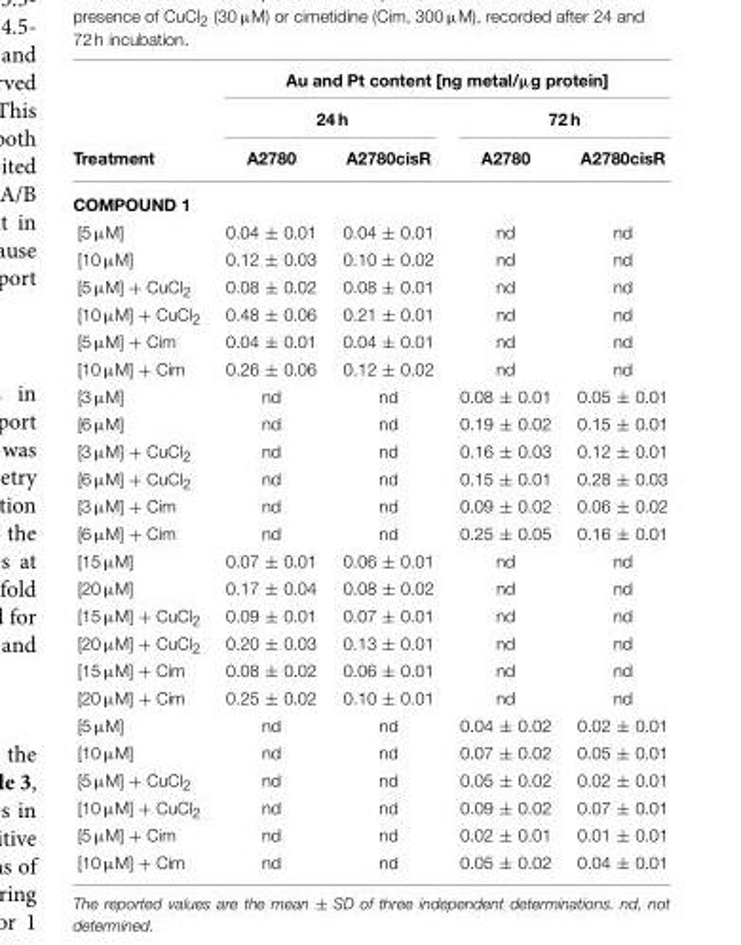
<table><thead><tr><td rowspan="3">Treatment</td><td colspan="4">Au and Pt content [ng metal/µg protein]</td></tr><tr><td colspan="2">24 h</td><td colspan="2">72 h</td></tr><tr><td>A2780</td><td>A2780cisR</td><td>A2780</td><td>A2780cisR</td></tr></thead><tbody><tr><td colspan="5">COMPOUND 1</td></tr><tr><td>[5 µM]</td><td>0.04 ± 0.01</td><td>0.04 ± 0.01</td><td>nd</td><td>nd</td></tr><tr><td>[10 µM]</td><td>0.12 ± 0.03</td><td>0.10 ± 0.02</td><td>nd</td><td>nd</td></tr><tr><td>[5 µM] + CuCl<sub>2</sub></td><td>0.08 ± 0.02</td><td>0.08 ± 0.01</td><td>nd</td><td>nd</td></tr><tr><td>[10 µM] + CuCl<sub>2</sub></td><td>0.48 ± 0.06</td><td>0.21 ± 0.01</td><td>nd</td><td>nd</td></tr><tr><td>[5 µM] + Cim</td><td>0.04 ± 0.01</td><td>0.04 ± 0.01</td><td>nd</td><td>nd</td></tr><tr><td>[10 µM] + Cim</td><td>0.26 ± 0.06</td><td>0.12 ± 0.02</td><td>nd</td><td>nd</td></tr><tr><td>[3 µM]</td><td>nd</td><td>nd</td><td>0.08 ± 0.01</td><td>0.05 ± 0.01</td></tr><tr><td>[6 µM]</td><td>nd</td><td>nd</td><td>0.19 ± 0.02</td><td>0.15 ± 0.01</td></tr><tr><td>[3 µM] + CuCl<sub>2</sub></td><td>nd</td><td>nd</td><td>0.16 ± 0.03</td><td>0.12 ± 0.01</td></tr><tr><td>[6 µM] + CuCl<sub>2</sub></td><td>nd</td><td>nd</td><td>0.15 ± 0.01</td><td>0.28 ± 0.03</td></tr><tr><td>[3 µM] + Cim</td><td>nd</td><td>nd</td><td>0.09 ± 0.02</td><td>0.06 ± 0.02</td></tr><tr><td>[6 µM] + Cim</td><td>nd</td><td>nd</td><td>0.25 ± 0.05</td><td>0.16 ± 0.01</td></tr><tr><td>[15 µM]</td><td>0.07 ± 0.01</td><td>0.06 ± 0.01</td><td>nd</td><td>nd</td></tr><tr><td>[20 µM]</td><td>0.17 ± 0.04</td><td>0.08 ± 0.02</td><td>nd</td><td>nd</td></tr><tr><td>[15 µM] + CuCl<sub>2</sub></td><td>0.09 ± 0.01</td><td>0.07 ± 0.01</td><td>nd</td><td>nd</td></tr><tr><td>[20 µM] + CuCl<sub>2</sub></td><td>0.20 ± 0.03</td><td>0.13 ± 0.01</td><td>nd</td><td>nd</td></tr><tr><td>[15 µM] + Cim</td><td>0.08 ± 0.02</td><td>0.06 ± 0.01</td><td>nd</td><td>nd</td></tr><tr><td>[20 µM] + Cim</td><td>0.25 ± 0.02</td><td>0.10 ± 0.01</td><td>nd</td><td>nd</td></tr><tr><td>[5 µM]</td><td>nd</td><td>nd</td><td>0.04 ± 0.02</td><td>0.02 ± 0.01</td></tr><tr><td>[10 µM]</td><td>nd</td><td>nd</td><td>0.07 ± 0.02</td><td>0.05 ± 0.01</td></tr><tr><td>[5 µM] + CuCl<sub>2</sub></td><td>nd</td><td>nd</td><td>0.05 ± 0.02</td><td>0.02 ± 0.01</td></tr><tr><td>[10 µM] + CuCl<sub>2</sub></td><td>nd</td><td>nd</td><td>0.09 ± 0.02</td><td>0.07 ± 0.01</td></tr><tr><td>[5 µM] + Cim</td><td>nd</td><td>nd</td><td>0.02 ± 0.01</td><td>0.01 ± 0.01</td></tr><tr><td>[10 µM] + Cim</td><td>nd</td><td>nd</td><td>0.05 ± 0.02</td><td>0.04 ± 0.01</td></tr></tbody></table>